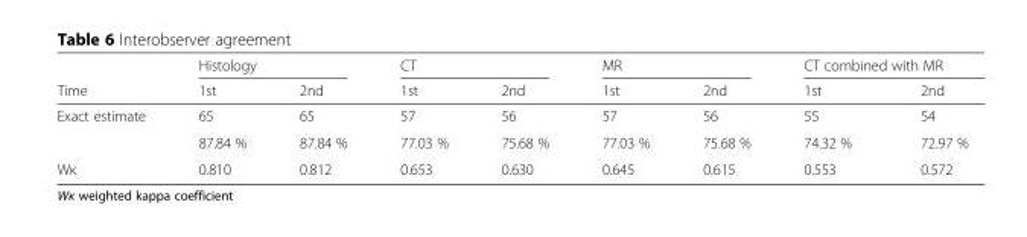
<table><thead><tr><td rowspan="2">Time</td><td colspan="2">Histology</td><td colspan="2">CT</td><td colspan="2">MR</td><td colspan="2">CT combined with MR</td></tr><tr><td>1st</td><td>2nd</td><td>1st</td><td>2nd</td><td>1st</td><td>2nd</td><td>1st</td><td>2nd</td></tr></thead><tbody><tr><td rowspan="2">Exact estimate</td><td>65</td><td>65</td><td>57</td><td>56</td><td>57</td><td>56</td><td>55</td><td>54</td></tr><tr><td>87.84 %</td><td>87.84 %</td><td>77.03 %</td><td>75.68 %</td><td>77.03 %</td><td>75.68 %</td><td>74.32 %</td><td>72.97 %</td></tr><tr><td>Wκ</td><td>0.810</td><td>0.812</td><td>0.653</td><td>0.630</td><td>0.645</td><td>0.615</td><td>0.553</td><td>0.572</td></tr></tbody></table>